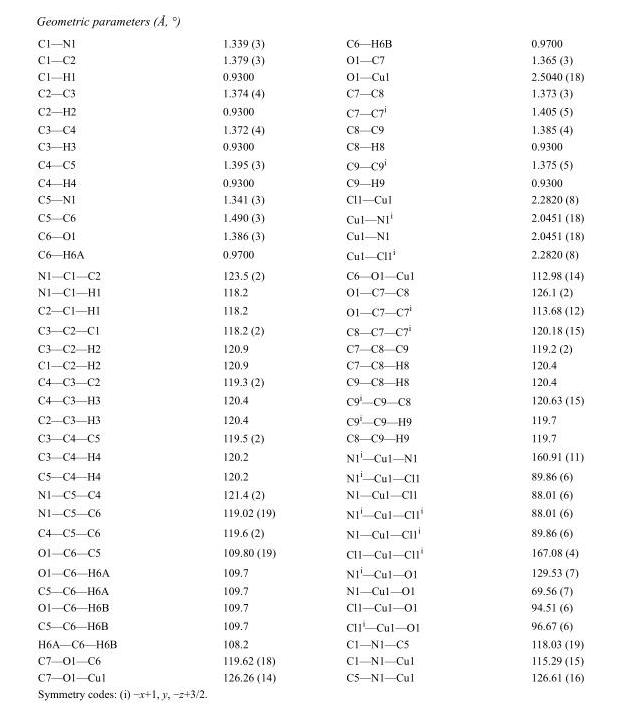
<table><tbody><tr><td>C1—N1</td><td>1.339 (3)</td><td>C6—H6B</td><td>0.9700</td></tr><tr><td>C1—C2</td><td>1.379 (3)</td><td>O1—C7</td><td>1.365 (3)</td></tr><tr><td>C1—H1</td><td>0.9300</td><td>O1—Cu1</td><td>2.5040 (18)</td></tr><tr><td>C2—C3</td><td>1.374 (4)</td><td>C7—C8</td><td>1.373 (3)</td></tr><tr><td>C2—H2</td><td>0.9300</td><td>C7—C7<sup>i</sup></td><td>1.405 (5)</td></tr><tr><td>C3—C4</td><td>1.372 (4)</td><td>C8—C9</td><td>1.385 (4)</td></tr><tr><td>C3—H3</td><td>0.9300</td><td>C8—H8</td><td>0.9300</td></tr><tr><td>C4—C5</td><td>1.395 (3)</td><td>C9—C9<sup>i</sup></td><td>1.375 (5)</td></tr><tr><td>C4—H4</td><td>0.9300</td><td>C9—H9</td><td>0.9300</td></tr><tr><td>C5—N1</td><td>1.341 (3)</td><td>Cl1—Cu1</td><td>2.2820 (8)</td></tr><tr><td>C5—C6</td><td>1.490 (3)</td><td>Cu1—N1<sup>i</sup></td><td>2.0451 (18)</td></tr><tr><td>C6—O1</td><td>1.386 (3)</td><td>Cu1—N1</td><td>2.0451 (18)</td></tr><tr><td>C6—H6A</td><td>0.9700</td><td>Cu1—Cl1<sup>i</sup></td><td>2.2820 (8)</td></tr><tr><td>N1—C1—C2</td><td>123.5 (2)</td><td>C6—O1—Cu1</td><td>112.98 (14)</td></tr><tr><td>N1—C1—H1</td><td>118.2</td><td>O1—C7—C8</td><td>126.1 (2)</td></tr><tr><td>C2—C1—H1</td><td>118.2</td><td>O1—C7—C7<sup>i</sup></td><td>113.68 (12)</td></tr><tr><td>C3—C2—C1</td><td>118.2 (2)</td><td>C8—C7—C7<sup>i</sup></td><td>120.18 (15)</td></tr><tr><td>C3—C2—H2</td><td>120.9</td><td>C7—C8—C9</td><td>119.2 (2)</td></tr><tr><td>C1—C2—H2</td><td>120.9</td><td>C7—C8—H8</td><td>120.4</td></tr><tr><td>C4—C3—C2</td><td>119.3 (2)</td><td>C9—C8—H8</td><td>120.4</td></tr><tr><td>C4—C3—H3</td><td>120.4</td><td>C9<sup>i</sup>—C9—C8</td><td>120.63 (15)</td></tr><tr><td>C2—C3—H3</td><td>120.4</td><td>C9<sup>i</sup>—C9—H9</td><td>119.7</td></tr><tr><td>C3—C4—C5</td><td>119.5 (2)</td><td>C8—C9—H9</td><td>119.7</td></tr><tr><td>C3—C4—H4</td><td>120.2</td><td>N1<sup>i</sup>—Cu1—N1</td><td>160.91 (11)</td></tr><tr><td>C5—C4—H4</td><td>120.2</td><td>N1<sup>i</sup>—Cu1—Cl1</td><td>89.86 (6)</td></tr><tr><td>N1—C5—C4</td><td>121.4 (2)</td><td>N1—Cu1—Cl1</td><td>88.01 (6)</td></tr><tr><td>N1—C5—C6</td><td>119.02 (19)</td><td>N1<sup>i</sup>—Cu1—Cl1<sup>i</sup></td><td>88.01 (6)</td></tr><tr><td>C4—C5—C6</td><td>119.6 (2)</td><td>N1—Cu1—Cl1<sup>i</sup></td><td>89.86 (6)</td></tr><tr><td>O1—C6—C5</td><td>109.80 (19)</td><td>Cl1—Cu1—Cl1<sup>i</sup></td><td>167.08 (4)</td></tr><tr><td>O1—C6—H6A</td><td>109.7</td><td>N1<sup>i</sup>—Cu1—O1</td><td>129.53 (7)</td></tr><tr><td>C5—C6—H6A</td><td>109.7</td><td>N1—Cu1—O1</td><td>69.56 (7)</td></tr><tr><td>O1—C6—H6B</td><td>109.7</td><td>Cl1—Cu1—O1</td><td>94.51 (6)</td></tr><tr><td>C5—C6—H6B</td><td>109.7</td><td>Cl1<sup>i</sup>—Cu1—O1</td><td>96.67 (6)</td></tr><tr><td>H6A—C6—H6B</td><td>108.2</td><td>C1—N1—C5</td><td>118.03 (19)</td></tr><tr><td>C7—O1—C6</td><td>119.62 (18)</td><td>C1—N1—Cu1</td><td>115.29 (15)</td></tr><tr><td>C7—O1—Cu1</td><td>126.26 (14)</td><td>C5—N1—Cu1</td><td>126.61 (16)</td></tr></tbody></table>